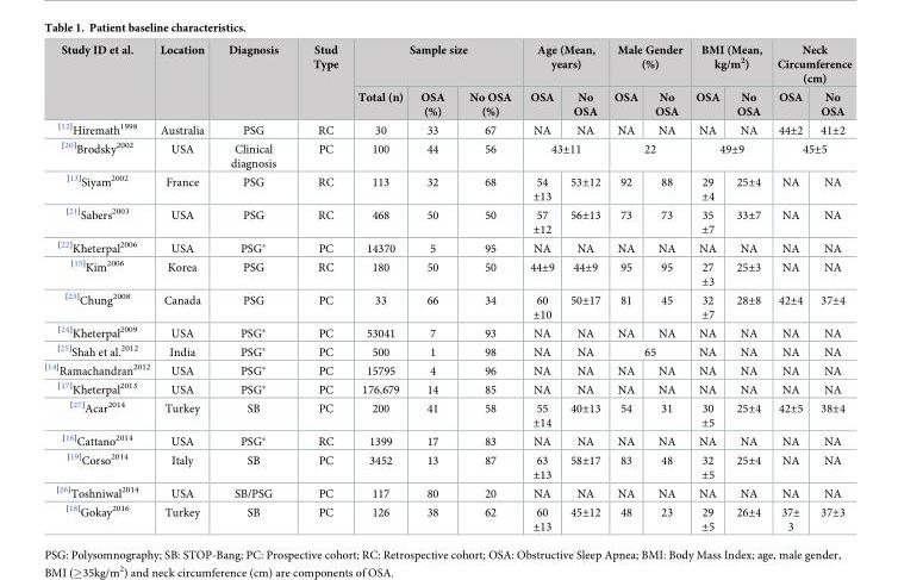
<table><thead><tr><td rowspan="2">Study ID et al.</td><td rowspan="2">Location</td><td rowspan="2">Diagnosis</td><td rowspan="2">Stud Type</td><td colspan="3">Sample size</td><td colspan="2">Age (Mean, years)</td><td colspan="2">Male Gender (%)</td><td colspan="2">BMI (Mean, kg/m<sup>2</sup>)</td><td colspan="2">Neck Circumference (cm)</td></tr><tr><td>Total (n)</td><td>OSA (%)</td><td>No OSA (%)</td><td>OSA</td><td>No OSA</td><td>OSA</td><td>No OSA</td><td>OSA</td><td>No OSA</td><td>OSA</td><td>No OSA</td></tr></thead><tbody><tr><td><sup>[12]</sup>Hiremath<sup>1998</sup></td><td>Australia</td><td>PSG</td><td>RC</td><td>30</td><td>33</td><td>67</td><td>NA</td><td>NA</td><td>NA</td><td>NA</td><td>NA</td><td>NA</td><td>44±2</td><td>41±2</td></tr><tr><td><sup>[20]</sup>Brodsky<sup>2002</sup></td><td>USA</td><td>Clinical diagnosis</td><td>PC</td><td>100</td><td>44</td><td>56</td><td colspan="2">43±11</td><td colspan="2">22</td><td colspan="2">49±9</td><td colspan="2">45±5</td></tr><tr><td><sup>[13]</sup>Siyam<sup>2002</sup></td><td>France</td><td>PSG</td><td>RC</td><td>113</td><td>32</td><td>68</td><td>54 ±13</td><td>53±12</td><td>92</td><td>88</td><td>29 ±4</td><td>25±4</td><td>NA</td><td>NA</td></tr><tr><td><sup>[21]</sup>Sabers<sup>2003</sup></td><td>USA</td><td>PSG</td><td>RC</td><td>468</td><td>50</td><td>50</td><td>57 ±12</td><td>56±13</td><td>73</td><td>73</td><td>35 ±7</td><td>33±7</td><td>NA</td><td>NA</td></tr><tr><td><sup>[22]</sup>Kheterpal<sup>2006</sup></td><td>USA</td><td>PSG*</td><td>PC</td><td>14370</td><td>5</td><td>95</td><td>NA</td><td>NA</td><td>NA</td><td>NA</td><td>NA</td><td>NA</td><td>NA</td><td>NA</td></tr><tr><td><sup>[15]</sup>Kim<sup>2006</sup></td><td>Korea</td><td>PSG</td><td>RC</td><td>180</td><td>50</td><td>50</td><td>44±9</td><td>44±9</td><td>95</td><td>95</td><td>27 ±3</td><td>25±3</td><td>NA</td><td>NA</td></tr><tr><td><sup>[23]</sup>Chung<sup>2008</sup></td><td>Canada</td><td>PSG</td><td>PC</td><td>33</td><td>66</td><td>34</td><td>60 ±10</td><td>50±17</td><td>81</td><td>45</td><td>32 ±7</td><td>28±8</td><td>42±4</td><td>37±4</td></tr><tr><td><sup>[24]</sup>Kheterpal<sup>2009</sup></td><td>USA</td><td>PSG*</td><td>PC</td><td>53041</td><td>7</td><td>93</td><td>NA</td><td>NA</td><td>NA</td><td>NA</td><td>NA</td><td>NA</td><td>NA</td><td>NA</td></tr><tr><td><sup>[25]</sup>Shah et al.<sup>2012</sup></td><td>India</td><td>PSG*</td><td>PC</td><td>500</td><td>1</td><td>98</td><td>NA</td><td>NA</td><td colspan="2">65</td><td>NA</td><td>NA</td><td>NA</td><td>NA</td></tr><tr><td><sup>[14]</sup>Ramachandran<sup>2012</sup></td><td>USA</td><td>PSG*</td><td>PC</td><td>15795</td><td>4</td><td>96</td><td>NA</td><td>NA</td><td>NA</td><td>NA</td><td>NA</td><td>NA</td><td>NA</td><td>NA</td></tr><tr><td><sup>[17]</sup>Kheterpal<sup>2013</sup></td><td>USA</td><td>PSG*</td><td>PC</td><td>176,679</td><td>14</td><td>85</td><td>NA</td><td>NA</td><td>NA</td><td>NA</td><td>NA</td><td>NA</td><td>NA</td><td>NA</td></tr><tr><td><sup>[27]</sup>Acar<sup>2014</sup></td><td>Turkey</td><td>SB</td><td>PC</td><td>200</td><td>41</td><td>58</td><td>55 ±14</td><td>40±13</td><td>54</td><td>31</td><td>30 ±5</td><td>25±4</td><td>42±5</td><td>38±4</td></tr><tr><td><sup>[16]</sup>Cattano<sup>2014</sup></td><td>USA</td><td>PSG*</td><td>RC</td><td>1399</td><td>17</td><td>83</td><td>NA</td><td>NA</td><td>NA</td><td>NA</td><td>NA</td><td>NA</td><td>NA</td><td>NA</td></tr><tr><td><sup>[19]</sup>Corso<sup>2014</sup></td><td>Italy</td><td>SB</td><td>PC</td><td>3452</td><td>13</td><td>87</td><td>63 ±13</td><td>58±17</td><td>83</td><td>48</td><td>32 ±5</td><td>25±4</td><td>NA</td><td>NA</td></tr><tr><td><sup>[26]</sup>Toshniwal<sup>2014</sup></td><td>USA</td><td>SB/PSG</td><td>PC</td><td>117</td><td>80</td><td>20</td><td>NA</td><td>NA</td><td>NA</td><td>NA</td><td>NA</td><td>NA</td><td>NA</td><td>NA</td></tr><tr><td><sup>[18]</sup>Gokay<sup>2016</sup></td><td>Turkey</td><td>SB</td><td>PC</td><td>126</td><td>38</td><td>62</td><td>60 ±13</td><td>45±12</td><td>48</td><td>23</td><td>29 ±5</td><td>26±4</td><td>37± 3</td><td>37±3</td></tr></tbody></table>